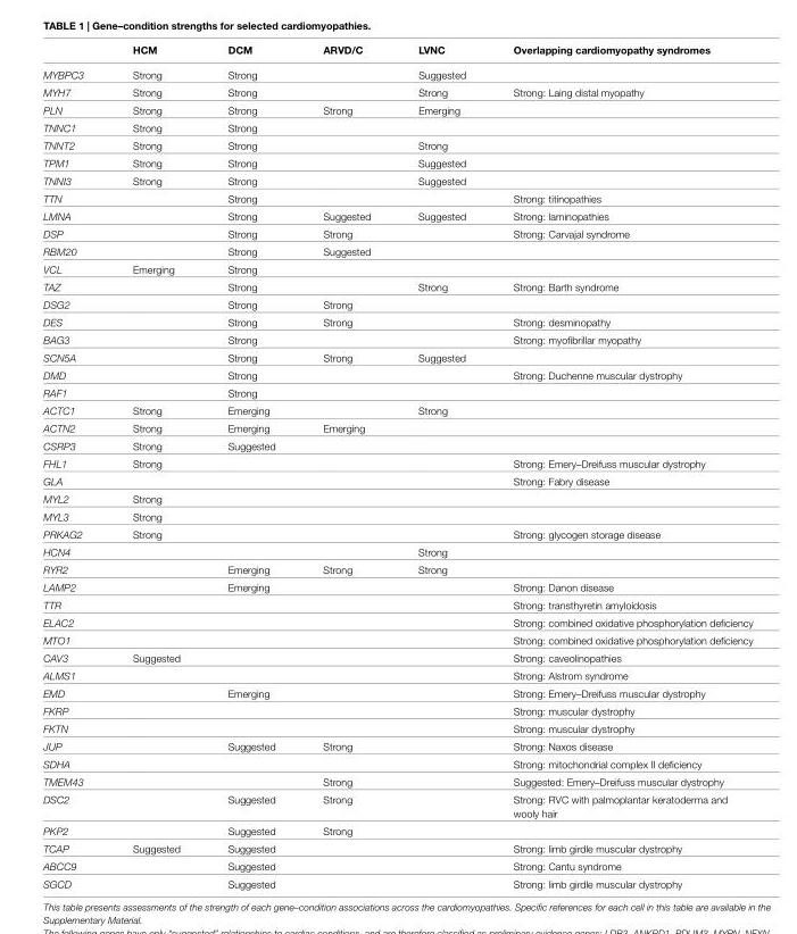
<table><thead><tr><td></td><td>hcM</td><td>DcM</td><td>arVD/c</td><td>lVnc</td><td>Overlapping cardiomyopathy syndromes</td></tr></thead><tbody><tr><td>MYBPC3</td><td>Strong</td><td>Strong</td><td></td><td>Suggested</td><td></td></tr><tr><td>MYH7</td><td>Strong</td><td>Strong</td><td></td><td>Strong</td><td>Strong: Laing distal myopathy</td></tr><tr><td>PLN</td><td>Strong</td><td>Strong</td><td>Strong</td><td>Emerging</td><td></td></tr><tr><td>TNNC1</td><td>Strong</td><td>Strong</td><td></td><td></td><td></td></tr><tr><td>TNNT2</td><td>Strong</td><td>Strong</td><td></td><td>Strong</td><td></td></tr><tr><td>TPM1</td><td>Strong</td><td>Strong</td><td></td><td>Suggested</td><td></td></tr><tr><td>TNNI3</td><td>Strong</td><td>Strong</td><td></td><td>Suggested</td><td></td></tr><tr><td>TTN</td><td></td><td>Strong</td><td></td><td></td><td>Strong: titinopathies</td></tr><tr><td>LMNA</td><td></td><td>Strong</td><td>Suggested</td><td>Suggested</td><td>Strong: laminopathies</td></tr><tr><td>DSP</td><td></td><td>Strong</td><td>Strong</td><td></td><td>Strong: Carvajal syndrome</td></tr><tr><td>RBM20</td><td></td><td>Strong</td><td>Suggested</td><td></td><td></td></tr><tr><td>VCL</td><td>Emerging</td><td>Strong</td><td></td><td></td><td></td></tr><tr><td>TAZ</td><td></td><td>Strong</td><td></td><td>Strong</td><td>Strong: Barth syndrome</td></tr><tr><td>DSG2</td><td></td><td>Strong</td><td>Strong</td><td></td><td></td></tr><tr><td>DES</td><td></td><td>Strong</td><td>Strong</td><td></td><td>Strong: desminopathy</td></tr><tr><td>BAG3</td><td></td><td>Strong</td><td></td><td></td><td>Strong: myofibrillar myopathy</td></tr><tr><td>SCN5A</td><td></td><td>Strong</td><td>Strong</td><td>Suggested</td><td></td></tr><tr><td>DMD</td><td></td><td>Strong</td><td></td><td></td><td>Strong: Duchenne muscular dystrophy</td></tr><tr><td>RAF1</td><td></td><td>Strong</td><td></td><td></td><td></td></tr><tr><td>ACTC1</td><td>Strong</td><td>Emerging</td><td></td><td>Strong</td><td></td></tr><tr><td>ACTN2</td><td>Strong</td><td>Emerging</td><td>Emerging</td><td></td><td></td></tr><tr><td>CSRP3</td><td>Strong</td><td>Suggested</td><td></td><td></td><td></td></tr><tr><td>FHL1</td><td>Strong</td><td></td><td></td><td></td><td>Strong: Emery–Dreifuss muscular dystrophy</td></tr><tr><td>GLA</td><td></td><td></td><td></td><td></td><td>Strong: Fabry disease</td></tr><tr><td>MYL2</td><td>Strong</td><td></td><td></td><td></td><td></td></tr><tr><td>MYL3</td><td>Strong</td><td></td><td></td><td></td><td></td></tr><tr><td>PRKAG2</td><td>Strong</td><td></td><td></td><td></td><td>Strong: glycogen storage disease</td></tr><tr><td>HCN4</td><td></td><td></td><td></td><td>Strong</td><td></td></tr><tr><td>RYR2</td><td></td><td>Emerging</td><td>Strong</td><td>Strong</td><td></td></tr><tr><td>LAMP2</td><td></td><td>Emerging</td><td></td><td></td><td>Strong: Danon disease</td></tr><tr><td>TTR</td><td></td><td></td><td></td><td></td><td>Strong: transthyretin amyloidosis</td></tr><tr><td>ELAC2</td><td></td><td></td><td></td><td></td><td>Strong: combined oxidative phosphorylation deficiency</td></tr><tr><td>MTO1</td><td></td><td></td><td></td><td></td><td>Strong: combined oxidative phosphorylation deficiency</td></tr><tr><td>CAV3</td><td>Suggested</td><td></td><td></td><td></td><td>Strong: caveolinopathies</td></tr><tr><td>ALMS1</td><td></td><td></td><td></td><td></td><td>Strong: Alstrom syndrome</td></tr><tr><td>EMD</td><td></td><td>Emerging</td><td></td><td></td><td>Strong: Emery–Dreifuss muscular dystrophy</td></tr><tr><td>FKRP</td><td></td><td></td><td></td><td></td><td>Strong: muscular dystrophy</td></tr><tr><td>FKTN</td><td></td><td></td><td></td><td></td><td>Strong: muscular dystrophy</td></tr><tr><td>JUP</td><td></td><td>Suggested</td><td>Strong</td><td></td><td>Strong: Naxos disease</td></tr><tr><td>SDHA</td><td></td><td></td><td></td><td></td><td>Strong: mitochondrial complex II deficiency</td></tr><tr><td>TMEM43</td><td></td><td></td><td>Strong</td><td></td><td>Suggested: Emery–Dreifuss muscular dystrophy</td></tr><tr><td>DSC2</td><td></td><td>Suggested</td><td>Strong</td><td></td><td>Strong: RVC with palmoplantar keratoderma and wooly hair</td></tr><tr><td>PKP2</td><td></td><td>Suggested</td><td>Strong</td><td></td><td></td></tr><tr><td>TCAP</td><td>Suggested</td><td>Suggested</td><td></td><td></td><td>Strong: limb girdle muscular dystrophy</td></tr><tr><td>ABCC9</td><td></td><td>Suggested</td><td></td><td></td><td>Strong: Cantu syndrome</td></tr><tr><td>SGCD</td><td></td><td>Suggested</td><td></td><td></td><td>Strong: limb girdle muscular dystrophy</td></tr></tbody></table>